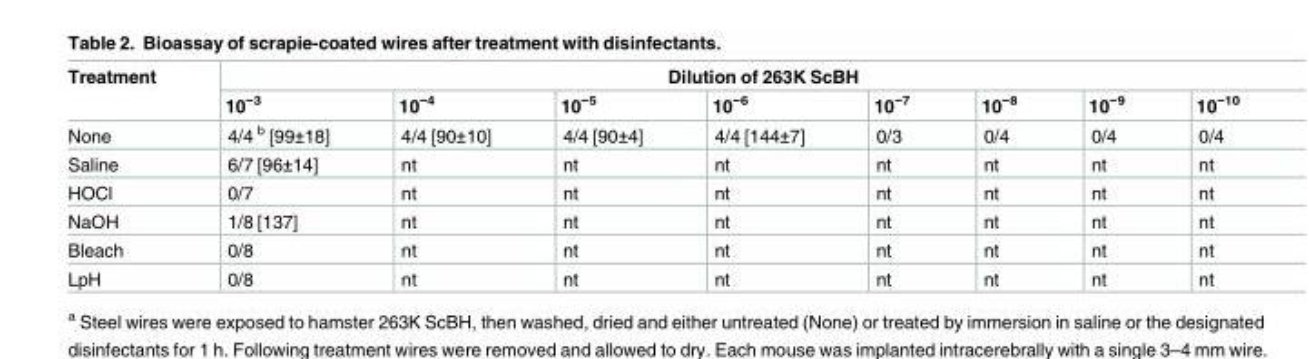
<table><thead><tr><td rowspan="2">Treatment</td><td colspan="8">Dilution of 263K ScBH</td></tr><tr><td>10<sup>−3</sup></td><td>10<sup>−4</sup></td><td>10<sup>−5</sup></td><td>10<sup>−6</sup></td><td>10<sup>−7</sup></td><td>10<sup>−8</sup></td><td>10<sup>−9</sup></td><td>10<sup>−10</sup></td></tr></thead><tbody><tr><td>None</td><td>4/4 <sup>b</sup> [99±18]</td><td>4/4 [90±10]</td><td>4/4 [90±4]</td><td>4/4 [144±7]</td><td>0/3</td><td>0/4</td><td>0/4</td><td>0/4</td></tr><tr><td>Saline</td><td>6/7 [96±14]</td><td>nt</td><td>nt</td><td>nt</td><td>nt</td><td>nt</td><td>nt</td><td>nt</td></tr><tr><td>HOCl</td><td>0/7</td><td>nt</td><td>nt</td><td>nt</td><td>nt</td><td>nt</td><td>nt</td><td>nt</td></tr><tr><td>NaOH</td><td>1/8 [137]</td><td>nt</td><td>nt</td><td>nt</td><td>nt</td><td>nt</td><td>nt</td><td>nt</td></tr><tr><td>Bleach</td><td>0/8</td><td>nt</td><td>nt</td><td>nt</td><td>nt</td><td>nt</td><td>nt</td><td>nt</td></tr><tr><td>LpH</td><td>0/8</td><td>nt</td><td>nt</td><td>nt</td><td>nt</td><td>nt</td><td>nt</td><td>nt</td></tr></tbody></table>